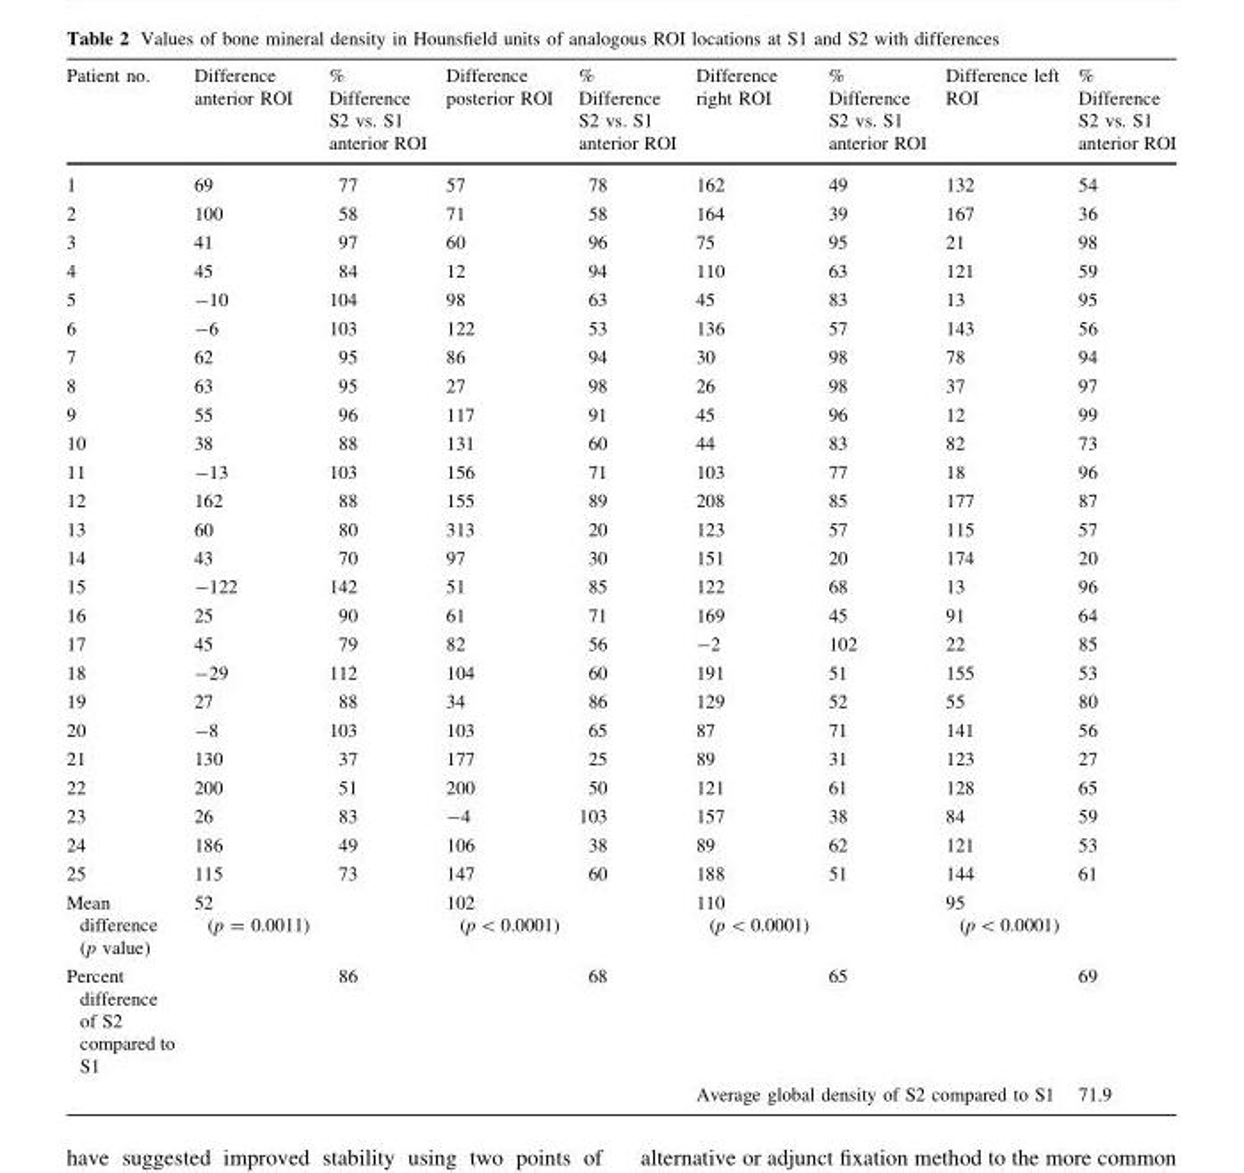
<table><thead><tr><td>Patient no.</td><td>Difference anterior ROI</td><td>% Difference S2 vs. S1 anterior ROI</td><td>Difference posterior ROI</td><td>% Difference S2 vs. S1 anterior ROI</td><td>Difference right ROI</td><td>% Difference S2 vs. S1 anterior ROI</td><td>Difference left ROI</td><td>% Difference S2 vs. S1 anterior ROI</td></tr></thead><tbody><tr><td>1</td><td>69</td><td>77</td><td>57</td><td>78</td><td>162</td><td>49</td><td>132</td><td>54</td></tr><tr><td>2</td><td>100</td><td>58</td><td>71</td><td>58</td><td>164</td><td>39</td><td>167</td><td>36</td></tr><tr><td>3</td><td>41</td><td>97</td><td>60</td><td>96</td><td>75</td><td>95</td><td>21</td><td>98</td></tr><tr><td>4</td><td>45</td><td>84</td><td>12</td><td>94</td><td>110</td><td>63</td><td>121</td><td>59</td></tr><tr><td>5</td><td>-10</td><td>104</td><td>98</td><td>63</td><td>45</td><td>83</td><td>13</td><td>95</td></tr><tr><td>6</td><td>-6</td><td>103</td><td>122</td><td>53</td><td>136</td><td>57</td><td>143</td><td>56</td></tr><tr><td>7</td><td>62</td><td>95</td><td>86</td><td>94</td><td>30</td><td>98</td><td>78</td><td>94</td></tr><tr><td>8</td><td>63</td><td>95</td><td>27</td><td>98</td><td>26</td><td>98</td><td>37</td><td>97</td></tr><tr><td>9</td><td>55</td><td>96</td><td>117</td><td>91</td><td>45</td><td>96</td><td>12</td><td>99</td></tr><tr><td>10</td><td>38</td><td>88</td><td>131</td><td>60</td><td>44</td><td>83</td><td>82</td><td>73</td></tr><tr><td>11</td><td>-13</td><td>103</td><td>156</td><td>71</td><td>103</td><td>77</td><td>18</td><td>96</td></tr><tr><td>12</td><td>162</td><td>88</td><td>155</td><td>89</td><td>208</td><td>85</td><td>177</td><td>87</td></tr><tr><td>13</td><td>60</td><td>80</td><td>313</td><td>20</td><td>123</td><td>57</td><td>115</td><td>57</td></tr><tr><td>14</td><td>43</td><td>70</td><td>97</td><td>30</td><td>151</td><td>20</td><td>174</td><td>20</td></tr><tr><td>15</td><td>-122</td><td>142</td><td>51</td><td>85</td><td>122</td><td>68</td><td>13</td><td>96</td></tr><tr><td>16</td><td>25</td><td>90</td><td>61</td><td>71</td><td>169</td><td>45</td><td>91</td><td>64</td></tr><tr><td>17</td><td>45</td><td>79</td><td>82</td><td>56</td><td>-2</td><td>102</td><td>22</td><td>85</td></tr><tr><td>18</td><td>-29</td><td>112</td><td>104</td><td>60</td><td>191</td><td>51</td><td>155</td><td>53</td></tr><tr><td>19</td><td>27</td><td>88</td><td>34</td><td>86</td><td>129</td><td>52</td><td>55</td><td>80</td></tr><tr><td>20</td><td>-8</td><td>103</td><td>103</td><td>65</td><td>87</td><td>71</td><td>141</td><td>56</td></tr><tr><td>21</td><td>130</td><td>37</td><td>177</td><td>25</td><td>89</td><td>31</td><td>123</td><td>27</td></tr><tr><td>22</td><td>200</td><td>51</td><td>200</td><td>50</td><td>121</td><td>61</td><td>128</td><td>65</td></tr><tr><td>23</td><td>26</td><td>83</td><td>-4</td><td>103</td><td>157</td><td>38</td><td>84</td><td>59</td></tr><tr><td>24</td><td>186</td><td>49</td><td>106</td><td>38</td><td>89</td><td>62</td><td>121</td><td>53</td></tr><tr><td>25</td><td>115</td><td>73</td><td>147</td><td>60</td><td>188</td><td>51</td><td>144</td><td>61</td></tr><tr><td>Mean difference (p value)</td><td>52 (p = 0.0011)</td><td></td><td>102 (p &lt; 0.0001)</td><td></td><td>110 (p &lt; 0.0001)</td><td></td><td>95 (p &lt; 0.0001)</td><td></td></tr><tr><td rowspan="2">Percent difference of S2 compared to S1</td><td></td><td>86</td><td></td><td>68</td><td></td><td>65</td><td></td><td>69</td></tr><tr><td></td><td></td><td></td><td></td><td colspan="3">Average global density of S2 compared to S1</td><td>71.9</td></tr></tbody></table>